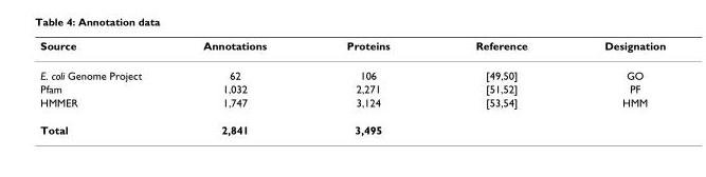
<table><thead><tr><td>Source</td><td>Annotations</td><td>Proteins</td><td>Reference</td><td>Designation</td></tr></thead><tbody><tr><td>E. coli Genome Project</td><td>62</td><td>106</td><td>[49,50]</td><td>GO</td></tr><tr><td>Pfam</td><td>1,032</td><td>2,271</td><td>[51,52]</td><td>PF</td></tr><tr><td>HMMER</td><td>1,747</td><td>3,124</td><td>[53,54]</td><td>HMM</td></tr><tr><td>Total</td><td>2,841</td><td>3,495</td><td></td><td></td></tr></tbody></table>